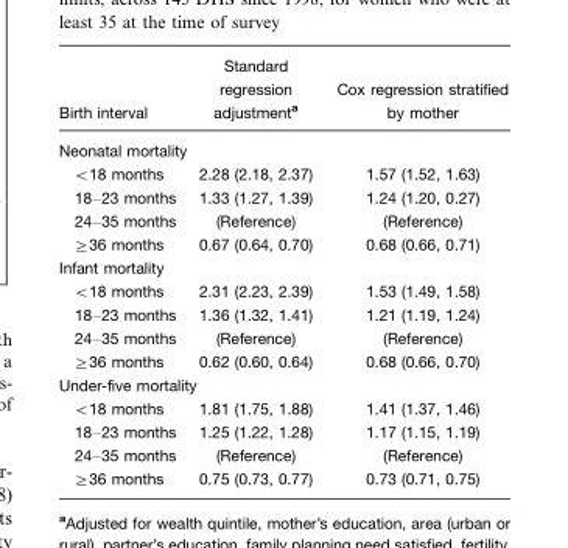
<table><thead><tr><td>Birth interval</td><td>Standard regression adjustmenta</td><td>Cox regression stratified by mother</td></tr></thead><tbody><tr><td colspan="3">Neonatal mortality</td></tr><tr><td>&lt;18 months</td><td>2.28 (2.18, 2.37)</td><td>1.57 (1.52, 1.63)</td></tr><tr><td>18–23 months</td><td>1.33 (1.27, 1.39)</td><td>1.24 (1.20, 0.27)</td></tr><tr><td>24–35 months</td><td>(Reference)</td><td>(Reference)</td></tr><tr><td>≥36 months</td><td>0.67 (0.64, 0.70)</td><td>0.68 (0.66, 0.71)</td></tr><tr><td colspan="3">Infant mortality</td></tr><tr><td>&lt;18 months</td><td>2.31 (2.23, 2.39)</td><td>1.53 (1.49, 1.58)</td></tr><tr><td>18–23 months</td><td>1.36 (1.32, 1.41)</td><td>1.21 (1.19, 1.24)</td></tr><tr><td>24–35 months</td><td>(Reference)</td><td>(Reference)</td></tr><tr><td>≥36 months</td><td>0.62 (0.60, 0.64)</td><td>0.68 (0.66, 0.70)</td></tr><tr><td colspan="3">Under-five mortality</td></tr><tr><td>&lt;18 months</td><td>1.81 (1.75, 1.88)</td><td>1.41 (1.37, 1.46)</td></tr><tr><td>18–23 months</td><td>1.25 (1.22, 1.28)</td><td>1.17 (1.15, 1.19)</td></tr><tr><td>24–35 months</td><td>(Reference)</td><td>(Reference)</td></tr><tr><td>≥36 months</td><td>0.75 (0.73, 0.77)</td><td>0.73 (0.71, 0.75)</td></tr></tbody></table>